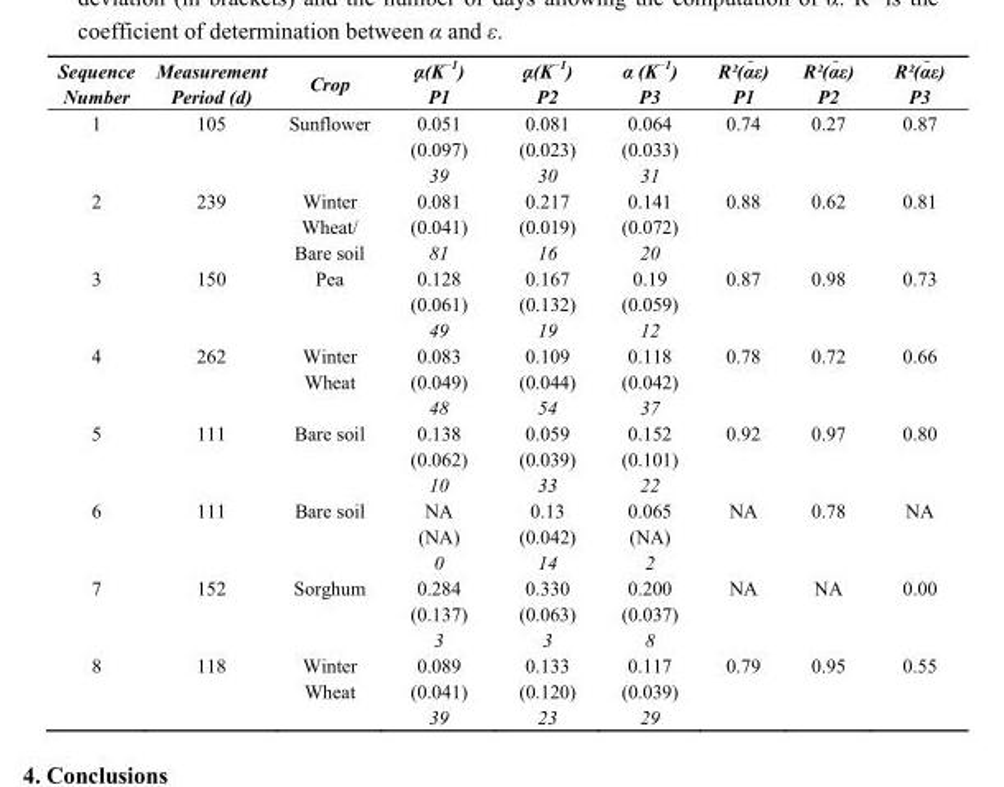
<table><thead><tr><td>Sequence Number</td><td>Measurement Period (d)</td><td>Crop</td><td>α(K−1) P1</td><td>α(K−1) P2</td><td>α (K<sup>−1</sup>) P3</td><td>R²(αε) P1</td><td>R²(αε) P2</td><td>R²(αε) P3</td></tr></thead><tbody><tr><td>1</td><td>105</td><td>Sunflower</td><td>0.051 (0.097) 39</td><td>0.081 (0.023) 30</td><td>0.064 (0.033) 31</td><td>0.74</td><td>0.27</td><td>0.87</td></tr><tr><td>2</td><td>239</td><td>Winter Wheat/ Bare soil</td><td>0.081 (0.041) 81</td><td>0.217 (0.019) 16</td><td>0.141 (0.072) 20</td><td>0.88</td><td>0.62</td><td>0.81</td></tr><tr><td>3</td><td>150</td><td>Pea</td><td>0.128 (0.061) 49</td><td>0.167 (0.132) 19</td><td>0.19 (0.059) 12</td><td>0.87</td><td>0.98</td><td>0.73</td></tr><tr><td>4</td><td>262</td><td>Winter Wheat</td><td>0.083 (0.049) 48</td><td>0.109 (0.044) 54</td><td>0.118 (0.042) 37</td><td>0.78</td><td>0.72</td><td>0.66</td></tr><tr><td>5</td><td>111</td><td>Bare soil</td><td>0.138 (0.062) 10</td><td>0.059 (0.039) 33</td><td>0.152 (0.101) 22</td><td>0.92</td><td>0.97</td><td>0.80</td></tr><tr><td>6</td><td>111</td><td>Bare soil</td><td>NA (NA) 0</td><td>0.13 (0.042) 14</td><td>0.065 (NA) 2</td><td>NA</td><td>0.78</td><td>NA</td></tr><tr><td>7</td><td>152</td><td>Sorghum</td><td>0.284 (0.137) 3</td><td>0.330 (0.063) 3</td><td>0.200 (0.037) 8</td><td>NA</td><td>NA</td><td>0.00</td></tr><tr><td>8</td><td>118</td><td>Winter Wheat</td><td>0.089 (0.041) 39</td><td>0.133 (0.120) 23</td><td>0.117 (0.039) 29</td><td>0.79</td><td>0.95</td><td>0.55</td></tr></tbody></table>